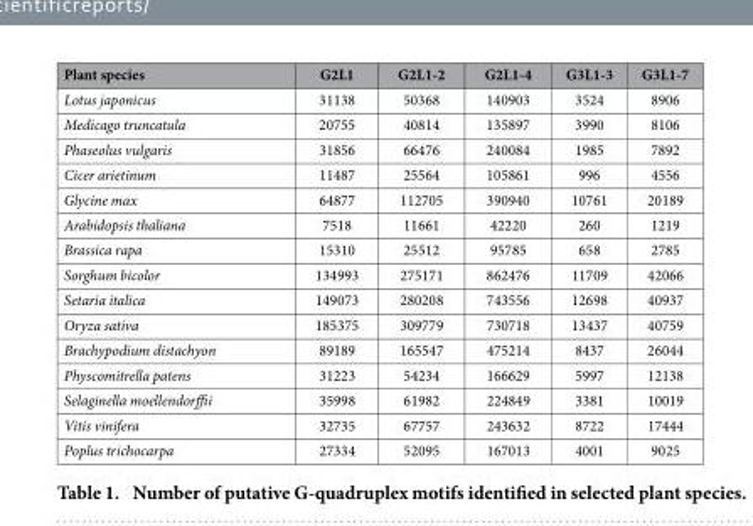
<table><thead><tr><td>Plant species</td><td>G2L1</td><td>G2L1-2</td><td>G2L1-4</td><td>G3L1-3</td><td>G3L1-7</td></tr></thead><tbody><tr><td>Lotus japonicus</td><td>31138</td><td>50368</td><td>140903</td><td>3524</td><td>8906</td></tr><tr><td>Medicago truncatula</td><td>20755</td><td>40814</td><td>135897</td><td>3990</td><td>8106</td></tr><tr><td>Phaseolus vulgaris</td><td>31856</td><td>66476</td><td>240084</td><td>1985</td><td>7892</td></tr><tr><td>Cicer arietinum</td><td>11487</td><td>25564</td><td>105861</td><td>996</td><td>4556</td></tr><tr><td>Glycine max</td><td>64877</td><td>112705</td><td>390940</td><td>10761</td><td>20189</td></tr><tr><td>Arabidopsis thaliana</td><td>7518</td><td>11661</td><td>42220</td><td>260</td><td>1219</td></tr><tr><td>Brassica rapa</td><td>15310</td><td>25512</td><td>95785</td><td>658</td><td>2785</td></tr><tr><td>Sorghum bicolor</td><td>134993</td><td>275171</td><td>862476</td><td>11709</td><td>42066</td></tr><tr><td>Setaria italica</td><td>149073</td><td>280208</td><td>743556</td><td>12698</td><td>40937</td></tr><tr><td>Oryza sativa</td><td>185375</td><td>309779</td><td>730718</td><td>13437</td><td>40759</td></tr><tr><td>Brachypodium distachyon</td><td>89189</td><td>165547</td><td>475214</td><td>8437</td><td>26044</td></tr><tr><td>Physcomitrella patens</td><td>31223</td><td>54234</td><td>166629</td><td>5997</td><td>12138</td></tr><tr><td>Selaginella moellendorffii</td><td>35998</td><td>61982</td><td>224849</td><td>3381</td><td>10019</td></tr><tr><td>Vitis vinifera</td><td>32735</td><td>67757</td><td>243632</td><td>8722</td><td>17444</td></tr><tr><td>Poplus trichocarpa</td><td>27334</td><td>52095</td><td>167013</td><td>4001</td><td>9025</td></tr></tbody></table>